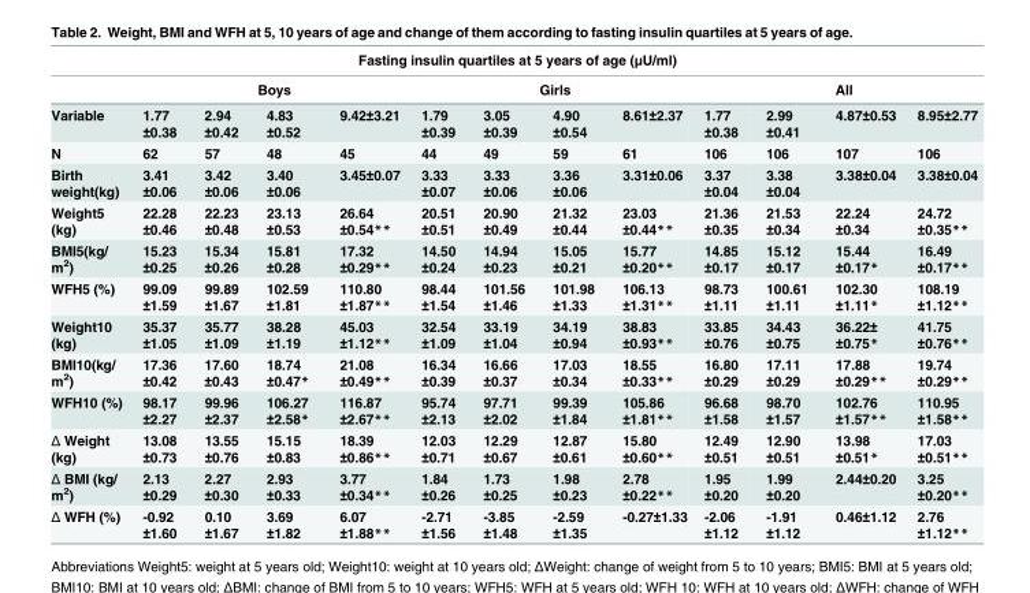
<table><thead><tr><td colspan="13">Fasting insulin quartiles at 5 years of age (μU/ml)</td></tr><tr><td rowspan="2">Variable</td><td colspan="4">Boys</td><td colspan="4">Girls</td><td colspan="4">All</td></tr><tr><td>1.77 ±0.38</td><td>2.94 ±0.42</td><td>4.83 ±0.52</td><td>9.42±3.21</td><td>1.79 ±0.39</td><td>3.05 ±0.39</td><td>4.90 ±0.54</td><td>8.61±2.37</td><td>1.77 ±0.38</td><td>2.99 ±0.41</td><td>4.87±0.53</td><td>8.95±2.77</td></tr></thead><tbody><tr><td>N</td><td>62</td><td>57</td><td>48</td><td>45</td><td>44</td><td>49</td><td>59</td><td>61</td><td>106</td><td>106</td><td>107</td><td>106</td></tr><tr><td>Birth weight(kg)</td><td>3.41 ±0.06</td><td>3.42 ±0.06</td><td>3.40 ±0.06</td><td>3.45±0.07</td><td>3.33 ±0.07</td><td>3.33 ±0.06</td><td>3.36 ±0.06</td><td>3.31±0.06</td><td>3.37 ±0.04</td><td>3.38 ±0.04</td><td>3.38±0.04</td><td>3.38±0.04</td></tr><tr><td>Weight5 (kg)</td><td>22.28 ±0.46</td><td>22.23 ±0.48</td><td>23.13 ±0.53</td><td>26.64 ±0.54**</td><td>20.51 ±0.51</td><td>20.90 ±0.49</td><td>21.32 ±0.44</td><td>23.03 ±0.44**</td><td>21.36 ±0.35</td><td>21.53 ±0.34</td><td>22.24 ±0.34</td><td>24.72 ±0.35**</td></tr><tr><td>BMI5(kg/ m<sup>2</sup>)</td><td>15.23 ±0.25</td><td>15.34 ±0.26</td><td>15.81 ±0.28</td><td>17.32 ±0.29**</td><td>14.50 ±0.24</td><td>14.94 ±0.23</td><td>15.05 ±0.21</td><td>15.77 ±0.20**</td><td>14.85 ±0.17</td><td>15.12 ±0.17</td><td>15.44 ±0.17*</td><td>16.49 ±0.17**</td></tr><tr><td>WFH5 (%)</td><td>99.09 ±1.59</td><td>99.89 ±1.67</td><td>102.59 ±1.81</td><td>110.80 ±1.87**</td><td>98.44 ±1.54</td><td>101.56 ±1.46</td><td>101.98 ±1.33</td><td>106.13 ±1.31**</td><td>98.73 ±1.11</td><td>100.61 ±1.11</td><td>102.30 ±1.11*</td><td>108.19 ±1.12**</td></tr><tr><td>Weight10 (kg)</td><td>35.37 ±1.05</td><td>35.77 ±1.09</td><td>38.28 ±1.19</td><td>45.03 ±1.12**</td><td>32.54 ±1.09</td><td>33.19 ±1.04</td><td>34.19 ±0.94</td><td>38.83 ±0.93**</td><td>33.85 ±0.76</td><td>34.43 ±0.75</td><td>36.22± ±0.75*</td><td>41.75 ±0.76**</td></tr><tr><td>BMI10(kg/ m<sup>2</sup>)</td><td>17.36 ±0.42</td><td>17.60 ±0.43</td><td>18.74 ±0.47*</td><td>21.08 ±0.49**</td><td>16.34 ±0.39</td><td>16.66 ±0.37</td><td>17.03 ±0.34</td><td>18.55 ±0.33**</td><td>16.80 ±0.29</td><td>17.11 ±0.29</td><td>17.88 ±0.29**</td><td>19.74 ±0.29**</td></tr><tr><td>WFH10 (%)</td><td>98.17 ±2.27</td><td>99.96 ±2.37</td><td>106.27 ±2.58*</td><td>116.87 ±2.67**</td><td>95.74 ±2.13</td><td>97.71 ±2.02</td><td>99.39 ±1.84</td><td>105.86 ±1.81**</td><td>96.68 ±1.58</td><td>98.70 ±1.57</td><td>102.76 ±1.57**</td><td>110.95 ±1.58**</td></tr><tr><td>Δ Weight (kg)</td><td>13.08 ±0.73</td><td>13.55 ±0.76</td><td>15.15 ±0.83</td><td>18.39 ±0.86**</td><td>12.03 ±0.71</td><td>12.29 ±0.67</td><td>12.87 ±0.61</td><td>15.80 ±0.60**</td><td>12.49 ±0.51</td><td>12.90 ±0.51</td><td>13.98 ±0.51*</td><td>17.03 ±0.51**</td></tr><tr><td>Δ BMI (kg/ m<sup>2</sup>)</td><td>2.13 ±0.29</td><td>2.27 ±0.30</td><td>2.93 ±0.33</td><td>3.77 ±0.34**</td><td>1.84 ±0.26</td><td>1.73 ±0.25</td><td>1.98 ±0.23</td><td>2.78 ±0.22**</td><td>1.95 ±0.20</td><td>1.99 ±0.20</td><td>2.44±0.20</td><td>3.25 ±0.20**</td></tr><tr><td>Δ WFH (%)</td><td>-0.92 ±1.60</td><td>0.10 ±1.67</td><td>3.69 ±1.82</td><td>6.07 ±1.88**</td><td>-2.71 ±1.56</td><td>-3.85 ±1.48</td><td>-2.59 ±1.35</td><td>-0.27±1.33</td><td>-2.06 ±1.12</td><td>-1.91 ±1.12</td><td>0.46±1.12</td><td>2.76 ±1.12**</td></tr></tbody></table>